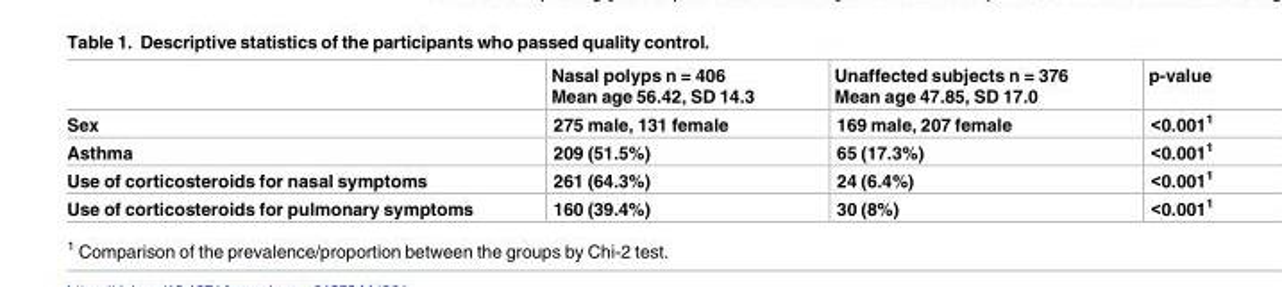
<table><thead><tr><td></td><td>Nasal polyps n = 406 Mean age 56.42, SD 14.3</td><td>Unaffected subjects n = 376 Mean age 47.85, SD 17.0</td><td>p-value</td></tr></thead><tbody><tr><td>Sex</td><td>275 male, 131 female</td><td>169 male, 207 female</td><td>&lt;0.001<sup>1</sup></td></tr><tr><td>Asthma</td><td>209 (51.5%)</td><td>65 (17.3%)</td><td>&lt;0.001<sup>1</sup></td></tr><tr><td>Use of corticosteroids for nasal symptoms</td><td>261 (64.3%)</td><td>24 (6.4%)</td><td>&lt;0.001<sup>1</sup></td></tr><tr><td>Use of corticosteroids for pulmonary symptoms</td><td>160 (39.4%)</td><td>30 (8%)</td><td>&lt;0.001<sup>1</sup></td></tr></tbody></table>